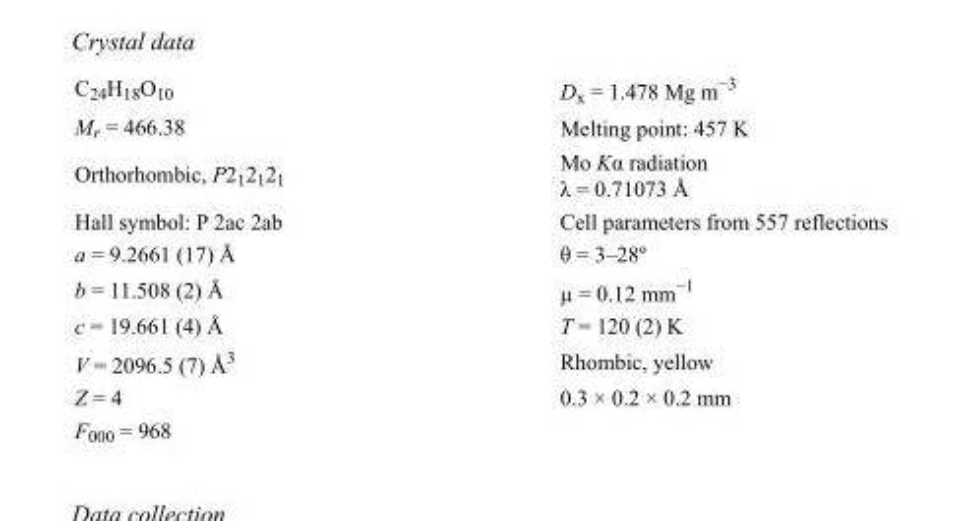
<table><tbody><tr><td>C<sub>24</sub>H<sub>18</sub>O<sub>10</sub></td><td>D<sub>x</sub> = 1.478 Mg m<sup>−3</sup></td></tr><tr><td>M<sub>r</sub> = 466.38</td><td>Melting point: 457 K</td></tr><tr><td>Orthorhombic, P2<sub>1</sub>2<sub>1</sub>2<sub>1</sub></td><td>Mo Kα radiation λ = 0.71073 Å</td></tr><tr><td>Hall symbol: P 2ac 2ab</td><td>Cell parameters from 557 reflections</td></tr><tr><td>a = 9.2661 (17) Å</td><td>θ = 3–28º</td></tr><tr><td>b = 11.508 (2) Å</td><td>µ = 0.12 mm<sup>−1</sup></td></tr><tr><td>c = 19.661 (4) Å</td><td>T = 120 (2) K</td></tr><tr><td>V = 2096.5 (7) Å<sup>3</sup></td><td>Rhombic, yellow</td></tr><tr><td>Z = 4</td><td>0.3 × 0.2 × 0.2 mm</td></tr><tr><td>F<sub>000</sub> = 968</td><td></td></tr></tbody></table>